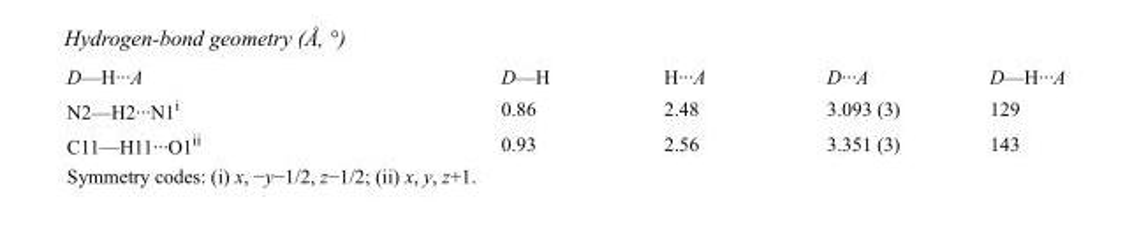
<table><tbody><tr><td>D—H···A</td><td>D—H</td><td>H···A</td><td>D···A</td><td>D—H···A</td></tr><tr><td>N2—H2···N1<sup>i</sup></td><td>0.86</td><td>2.48</td><td>3.093 (3)</td><td>129</td></tr><tr><td>C11—H11···O1<sup>ii</sup></td><td>0.93</td><td>2.56</td><td>3.351 (3)</td><td>143</td></tr></tbody></table>